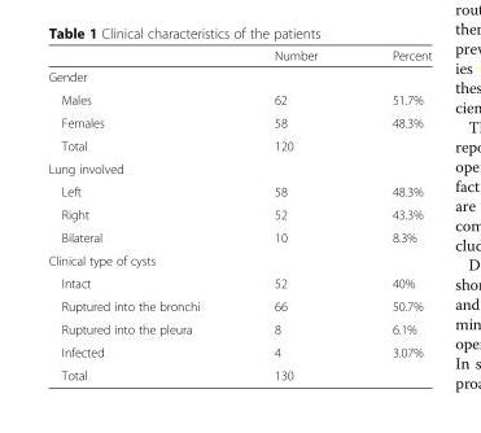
<table><thead><tr><td></td><td>Number</td><td>Percent</td></tr></thead><tbody><tr><td colspan="3">Gender</td></tr><tr><td>Males</td><td>62</td><td>51.7%</td></tr><tr><td>Females</td><td>58</td><td>48.3%</td></tr><tr><td>Total</td><td>120</td><td></td></tr><tr><td colspan="3">Lung involved</td></tr><tr><td>Left</td><td>58</td><td>48.3%</td></tr><tr><td>Right</td><td>52</td><td>43.3%</td></tr><tr><td>Bilateral</td><td>10</td><td>8.3%</td></tr><tr><td colspan="3">Clinical type of cysts</td></tr><tr><td>Intact</td><td>52</td><td>40%</td></tr><tr><td>Ruptured into the bronchi</td><td>66</td><td>50.7%</td></tr><tr><td>Ruptured into the pleura</td><td>8</td><td>6.1%</td></tr><tr><td>Infected</td><td>4</td><td>3.07%</td></tr><tr><td>Total</td><td>130</td><td></td></tr></tbody></table>